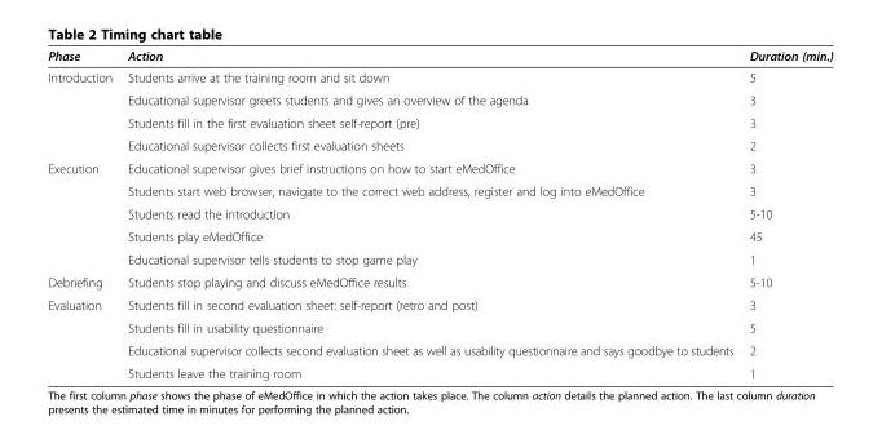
<table><thead><tr><td>Phase</td><td>Action</td><td>Duration (min.)</td></tr></thead><tbody><tr><td rowspan="4">Introduction</td><td>Students arrive at the training room and sit down</td><td>5</td></tr><tr><td>Educational supervisor greets students and gives an overview of the agenda</td><td>3</td></tr><tr><td>Students fill in the first evaluation sheet self-report (pre)</td><td>3</td></tr><tr><td>Educational supervisor collects first evaluation sheets</td><td>2</td></tr><tr><td rowspan="5">Execution</td><td>Educational supervisor gives brief instructions on how to start eMedOffice</td><td>3</td></tr><tr><td>Students start web browser, navigate to the correct web address, register and log into eMedOffice</td><td>3</td></tr><tr><td>Students read the introduction</td><td>5-10</td></tr><tr><td>Students play eMedOffice</td><td>45</td></tr><tr><td>Educational supervisor tells students to stop game play</td><td>1</td></tr><tr><td>Debriefing</td><td>Students stop playing and discuss eMedOffice results</td><td>5-10</td></tr><tr><td rowspan="4">Evaluation</td><td>Students fill in second evaluation sheet: self-report (retro and post)</td><td>3</td></tr><tr><td>Students fill in usability questionnaire</td><td>5</td></tr><tr><td>Educational supervisor collects second evaluation sheet as well as usability questionnaire and says goodbye to students</td><td>2</td></tr><tr><td>Students leave the training room</td><td>1</td></tr></tbody></table>